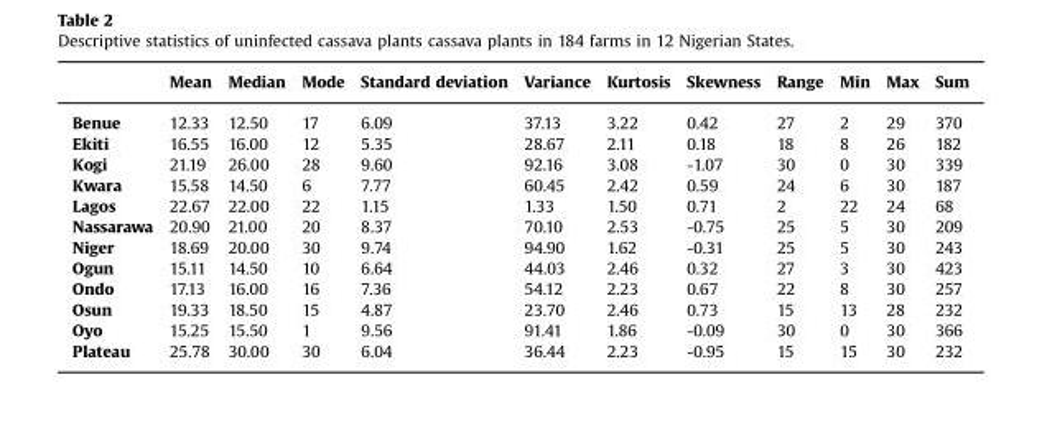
<table><thead><tr><td></td><td>Mean</td><td>Median</td><td>Mode</td><td>Standard deviation</td><td>Variance</td><td>Kurtosis</td><td>Skewness</td><td>Range</td><td>Min</td><td>Max</td><td>Sum</td></tr></thead><tbody><tr><td>Benue</td><td>12.33</td><td>12.50</td><td>17</td><td>6.09</td><td>37.13</td><td>3.22</td><td>0.42</td><td>27</td><td>2</td><td>29</td><td>370</td></tr><tr><td>Ekiti</td><td>16.55</td><td>16.00</td><td>12</td><td>5.35</td><td>28.67</td><td>2.11</td><td>0.18</td><td>18</td><td>8</td><td>26</td><td>182</td></tr><tr><td>Kogi</td><td>21.19</td><td>26.00</td><td>28</td><td>9.60</td><td>92.16</td><td>3.08</td><td>-1.07</td><td>30</td><td>0</td><td>30</td><td>339</td></tr><tr><td>Kwara</td><td>15.58</td><td>14.50</td><td>6</td><td>7.77</td><td>60.45</td><td>2.42</td><td>0.59</td><td>24</td><td>6</td><td>30</td><td>187</td></tr><tr><td>Lagos</td><td>22.67</td><td>22.00</td><td>22</td><td>1.15</td><td>1.33</td><td>1.50</td><td>0.71</td><td>2</td><td>22</td><td>24</td><td>68</td></tr><tr><td>Nassarawa</td><td>20.90</td><td>21.00</td><td>20</td><td>8.37</td><td>70.10</td><td>2.53</td><td>-0.75</td><td>25</td><td>5</td><td>30</td><td>209</td></tr><tr><td>Niger</td><td>18.69</td><td>20.00</td><td>30</td><td>9.74</td><td>94.90</td><td>1.62</td><td>-0.31</td><td>25</td><td>5</td><td>30</td><td>243</td></tr><tr><td>Ogun</td><td>15.11</td><td>14.50</td><td>10</td><td>6.64</td><td>44.03</td><td>2.46</td><td>0.32</td><td>27</td><td>3</td><td>30</td><td>423</td></tr><tr><td>Ondo</td><td>17.13</td><td>16.00</td><td>16</td><td>7.36</td><td>54.12</td><td>2.23</td><td>0.67</td><td>22</td><td>8</td><td>30</td><td>257</td></tr><tr><td>Osun</td><td>19.33</td><td>18.50</td><td>15</td><td>4.87</td><td>23.70</td><td>2.46</td><td>0.73</td><td>15</td><td>13</td><td>28</td><td>232</td></tr><tr><td>Oyo</td><td>15.25</td><td>15.50</td><td>1</td><td>9.56</td><td>91.41</td><td>1.86</td><td>-0.09</td><td>30</td><td>0</td><td>30</td><td>366</td></tr><tr><td>Plateau</td><td>25.78</td><td>30.00</td><td>30</td><td>6.04</td><td>36.44</td><td>2.23</td><td>-0.95</td><td>15</td><td>15</td><td>30</td><td>232</td></tr></tbody></table>